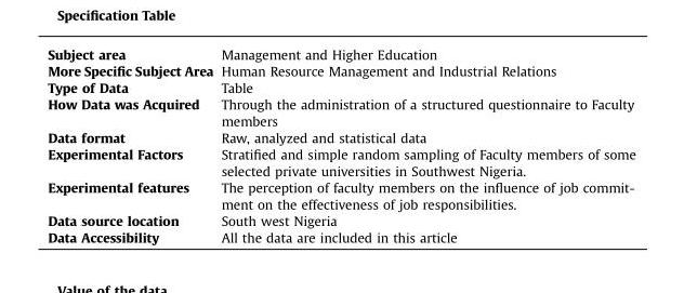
<table><tbody><tr><td>Subject area</td><td>Management and Higher Education</td></tr><tr><td>More Specific Subject Area</td><td>Human Resource Management and Industrial Relations</td></tr><tr><td>Type of Data</td><td>Table</td></tr><tr><td>How Data was Acquired</td><td>Through the administration of a structured questionnaire to Faculty members</td></tr><tr><td>Data format</td><td>Raw, analyzed and statistical data</td></tr><tr><td>Experimental Factors</td><td>Stratified and simple random sampling of Faculty members of some selected private universities in Southwest Nigeria.</td></tr><tr><td>Experimental features</td><td>The perception of faculty members on the influence of job commit- ment on the effectiveness of job responsibilities.</td></tr><tr><td>Data source location</td><td>South west Nigeria</td></tr><tr><td>Data Accessibility</td><td>All the data are included in this article</td></tr></tbody></table>